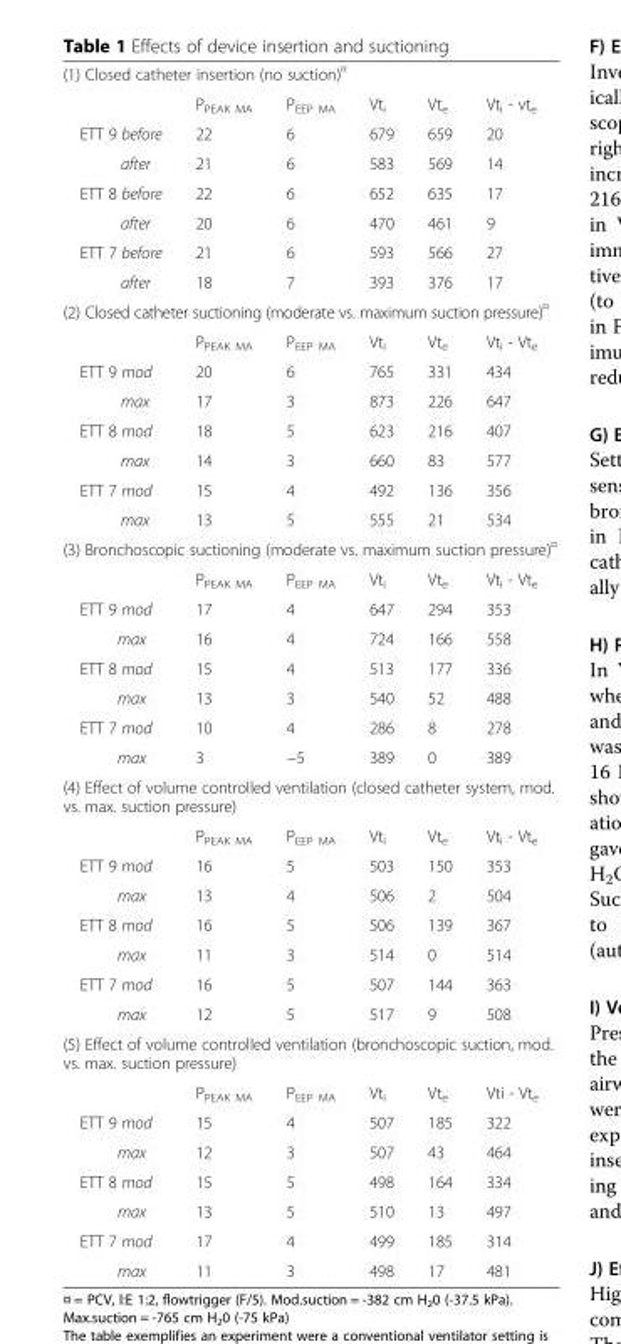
<table><tbody><tr><td colspan="6">(1) Closed catheter insertion (no suction)<sup>¤</sup></td></tr><tr><td></td><td>P<sub>PEAK MA</sub></td><td>P<sub>EEP MA</sub></td><td>Vt<sub>i</sub></td><td>Vt<sub>e</sub></td><td>Vt<sub>i</sub> - vt<sub>e</sub></td></tr><tr><td>ETT 9 before</td><td>22</td><td>6</td><td>679</td><td>659</td><td>20</td></tr><tr><td>after</td><td>21</td><td>6</td><td>583</td><td>569</td><td>14</td></tr><tr><td>ETT 8 before</td><td>22</td><td>6</td><td>652</td><td>635</td><td>17</td></tr><tr><td>after</td><td>20</td><td>6</td><td>470</td><td>461</td><td>9</td></tr><tr><td>ETT 7 before</td><td>21</td><td>6</td><td>593</td><td>566</td><td>27</td></tr><tr><td>after</td><td>18</td><td>7</td><td>393</td><td>376</td><td>17</td></tr><tr><td colspan="6">(2) Closed catheter suctioning (moderate vs. maximum suction pressure)<sup>¤</sup></td></tr><tr><td></td><td>P<sub>PEAK MA</sub></td><td>P<sub>EEP MA</sub></td><td>Vt<sub>i</sub></td><td>Vt<sub>e</sub></td><td>Vt<sub>i</sub> - Vt<sub>e</sub></td></tr><tr><td>ETT 9 mod</td><td>20</td><td>6</td><td>765</td><td>331</td><td>434</td></tr><tr><td>max</td><td>17</td><td>3</td><td>873</td><td>226</td><td>647</td></tr><tr><td>ETT 8 mod</td><td>18</td><td>5</td><td>623</td><td>216</td><td>407</td></tr><tr><td>max</td><td>14</td><td>3</td><td>660</td><td>83</td><td>577</td></tr><tr><td>ETT 7 mod</td><td>15</td><td>4</td><td>492</td><td>136</td><td>356</td></tr><tr><td>max</td><td>13</td><td>5</td><td>555</td><td>21</td><td>534</td></tr><tr><td colspan="6">(3) Bronchoscopic suctioning (moderate vs. maximum suction pressure)<sup>¤</sup></td></tr><tr><td></td><td>P<sub>PEAK MA</sub></td><td>P<sub>EEP MA</sub></td><td>Vt<sub>i</sub></td><td>Vt<sub>e</sub></td><td>Vt<sub>i</sub> - Vt<sub>e</sub></td></tr><tr><td>ETT 9 mod</td><td>17</td><td>4</td><td>647</td><td>294</td><td>353</td></tr><tr><td>max</td><td>16</td><td>4</td><td>724</td><td>166</td><td>558</td></tr><tr><td>ETT 8 mod</td><td>15</td><td>4</td><td>513</td><td>177</td><td>336</td></tr><tr><td>max</td><td>13</td><td>3</td><td>540</td><td>52</td><td>488</td></tr><tr><td>ETT 7 mod</td><td>10</td><td>4</td><td>286</td><td>8</td><td>278</td></tr><tr><td>max</td><td>3</td><td>−5</td><td>389</td><td>0</td><td>389</td></tr><tr><td colspan="6">(4) Effect of volume controlled ventilation (closed catheter system, mod. vs. max. suction pressure)</td></tr><tr><td></td><td>P<sub>PEAK MA</sub></td><td>P<sub>EEP MA</sub></td><td>Vt<sub>i</sub></td><td>Vt<sub>e</sub></td><td>Vt<sub>i</sub> - Vt<sub>e</sub></td></tr><tr><td>ETT 9 mod</td><td>16</td><td>5</td><td>503</td><td>150</td><td>353</td></tr><tr><td>max</td><td>13</td><td>4</td><td>506</td><td>2</td><td>504</td></tr><tr><td>ETT 8 mod</td><td>16</td><td>5</td><td>506</td><td>139</td><td>367</td></tr><tr><td>max</td><td>11</td><td>3</td><td>514</td><td>0</td><td>514</td></tr><tr><td>ETT 7 mod</td><td>16</td><td>5</td><td>507</td><td>144</td><td>363</td></tr><tr><td>max</td><td>12</td><td>5</td><td>517</td><td>9</td><td>508</td></tr><tr><td colspan="6">(5) Effect of volume controlled ventilation (bronchoscopic suction, mod. vs. max. suction pressure)</td></tr><tr><td></td><td>P<sub>PEAK MA</sub></td><td>P<sub>EEP MA</sub></td><td>Vt<sub>i</sub></td><td>Vt<sub>e</sub></td><td>Vti - Vt<sub>e</sub></td></tr><tr><td>ETT 9 mod</td><td>15</td><td>4</td><td>507</td><td>185</td><td>322</td></tr><tr><td>max</td><td>12</td><td>3</td><td>507</td><td>43</td><td>464</td></tr><tr><td>ETT 8 mod</td><td>15</td><td>5</td><td>498</td><td>164</td><td>334</td></tr><tr><td>max</td><td>13</td><td>5</td><td>510</td><td>13</td><td>497</td></tr><tr><td>ETT 7 mod</td><td>17</td><td>4</td><td>499</td><td>185</td><td>314</td></tr><tr><td>max</td><td>11</td><td>3</td><td>498</td><td>17</td><td>481</td></tr></tbody></table>